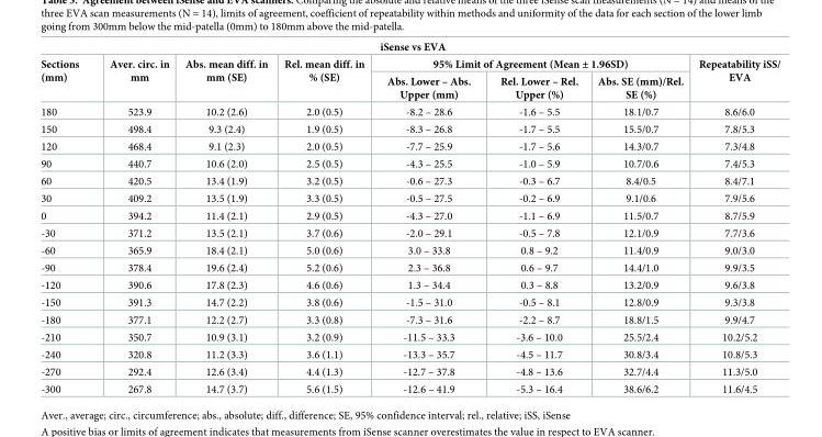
<table><thead><tr><td colspan="8">iSense vs EVA</td></tr><tr><td rowspan="2">Sections (mm)</td><td rowspan="2">Aver. circ. in mm</td><td rowspan="2">Abs. mean diff. in mm (SE)</td><td rowspan="2">Rel. mean diff. in % (SE)</td><td colspan="3">95% Limit of Agreement (Mean ± 1.96SD)</td><td rowspan="2">Repeatability iSS/ EVA</td></tr><tr><td>Abs. Lower – Abs. Upper (mm)</td><td>Rel. Lower – Rel. Upper (%)</td><td>Abs. SE (mm)/Rel. SE (%)</td></tr></thead><tbody><tr><td>180</td><td>523.9</td><td>10.2 (2.6)</td><td>2.0 (0.5)</td><td>-8.2 – 28.6</td><td>-1.6 – 5.5</td><td>18.1/0.7</td><td>8.6/6.0</td></tr><tr><td>150</td><td>498.4</td><td>9.3 (2.4)</td><td>1.9 (0.5)</td><td>-8.3 – 26.8</td><td>-1.7 – 5.5</td><td>15.5/0.7</td><td>7.8/5.3</td></tr><tr><td>120</td><td>468.4</td><td>9.1 (2.3)</td><td>2.0 (0.5)</td><td>-7.7 – 25.9</td><td>-1.7 – 5.6</td><td>14.3/0.7</td><td>7.3/4.8</td></tr><tr><td>90</td><td>440.7</td><td>10.6 (2.0)</td><td>2.5 (0.5)</td><td>-4.3 – 25.5</td><td>-1.0 – 5.9</td><td>10.7/0.6</td><td>7.4/5.3</td></tr><tr><td>60</td><td>420.5</td><td>13.4 (1.9)</td><td>3.2 (0.5)</td><td>-0.6 – 27.3</td><td>-0.3 – 6.7</td><td>8.4/0.5</td><td>8.4/7.1</td></tr><tr><td>30</td><td>409.2</td><td>13.5 (1.9)</td><td>3.3 (0.5)</td><td>-0.5 – 27.5</td><td>-0.2 – 6.9</td><td>9.1/0.6</td><td>7.9/5.6</td></tr><tr><td>0</td><td>394.2</td><td>11.4 (2.1)</td><td>2.9 (0.5)</td><td>-4.3 – 27.0</td><td>-1.1 – 6.9</td><td>11.5/0.7</td><td>8.7/5.9</td></tr><tr><td>-30</td><td>371.2</td><td>13.5 (2.1)</td><td>3.7 (0.6)</td><td>-2.0 – 29.1</td><td>-0.5 – 7.8</td><td>12.1/0.9</td><td>7.7/3.6</td></tr><tr><td>-60</td><td>365.9</td><td>18.4 (2.1)</td><td>5.0 (0.6)</td><td>3.0 – 33.8</td><td>0.8 – 9.2</td><td>11.4/0.9</td><td>9.0/3.0</td></tr><tr><td>-90</td><td>378.4</td><td>19.6 (2.4)</td><td>5.2 (0.6)</td><td>2.3 – 36.8</td><td>0.6 – 9.7</td><td>14.4/1.0</td><td>9.9/3.5</td></tr><tr><td>-120</td><td>390.6</td><td>17.8 (2.3)</td><td>4.6 (0.6)</td><td>1.3 – 34.4</td><td>0.3 – 8.8</td><td>13.2/0.9</td><td>9.6/3.8</td></tr><tr><td>-150</td><td>391.3</td><td>14.7 (2.2)</td><td>3.8 (0.6)</td><td>-1.5 – 31.0</td><td>-0.5 – 8.1</td><td>12.8/0.9</td><td>9.3/3.8</td></tr><tr><td>-180</td><td>377.1</td><td>12.2 (2.7)</td><td>3.3 (0.8)</td><td>-7.3 – 31.6</td><td>-2.2 – 8.7</td><td>18.8/1.5</td><td>9.9/4.7</td></tr><tr><td>-210</td><td>350.7</td><td>10.9 (3.1)</td><td>3.2 (0.9)</td><td>-11.5 – 33.3</td><td>-3.6 – 10.0</td><td>25.5/2.4</td><td>10.2/5.2</td></tr><tr><td>-240</td><td>320.8</td><td>11.2 (3.3)</td><td>3.6 (1.1)</td><td>-13.3 – 35.7</td><td>-4.5 – 11.7</td><td>30.8/3.4</td><td>10.8/5.3</td></tr><tr><td>-270</td><td>292.4</td><td>12.6 (3.4)</td><td>4.4 (1.3)</td><td>-12.7 – 37.8</td><td>-4.8 – 13.6</td><td>32.7/4.4</td><td>11.3/5.0</td></tr><tr><td>-300</td><td>267.8</td><td>14.7 (3.7)</td><td>5.6 (1.5)</td><td>-12.6 – 41.9</td><td>-5.3 – 16.4</td><td>38.6/6.2</td><td>11.6/4.5</td></tr></tbody></table>